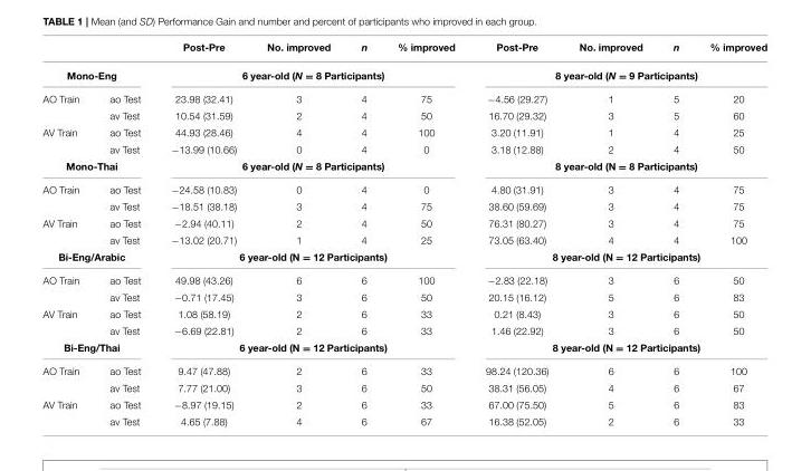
<table><thead><tr><td></td><td></td><td>Post-Pre</td><td>No. improved</td><td>n</td><td>% improved</td><td>Post-Pre</td><td>No. improved</td><td>n</td><td>% improved</td></tr></thead><tbody><tr><td colspan="2">Mono-Eng</td><td colspan="4">6 year-old (N = 8 Participants)</td><td colspan="4">8 year-old (N = 9 Participants)</td></tr><tr><td rowspan="2">AO Train</td><td>ao Test</td><td>23.98 (32.41)</td><td>3</td><td>4</td><td>75</td><td>−4.56 (29.27)</td><td>1</td><td>5</td><td>20</td></tr><tr><td>av Test</td><td>10.54 (31.59)</td><td>2</td><td>4</td><td>50</td><td>16.70 (29.32)</td><td>3</td><td>5</td><td>60</td></tr><tr><td rowspan="2">AV Train</td><td>ao Test</td><td>44.93 (28.46)</td><td>4</td><td>4</td><td>100</td><td>3.20 (11.91)</td><td>1</td><td>4</td><td>25</td></tr><tr><td>av Test</td><td>−13.99 (10.66)</td><td>0</td><td>4</td><td>0</td><td>3.18 (12.88)</td><td>2</td><td>4</td><td>50</td></tr><tr><td colspan="2">Mono-Thai</td><td colspan="4">6 year-old (N = 8 Participants)</td><td colspan="4">8 year-old (N = 8 Participants)</td></tr><tr><td rowspan="2">AO Train</td><td>ao Test</td><td>−24.58 (10.83)</td><td>0</td><td>4</td><td>0</td><td>4.80 (31.91)</td><td>3</td><td>4</td><td>75</td></tr><tr><td>av Test</td><td>−18.51 (38.18)</td><td>3</td><td>4</td><td>75</td><td>38.60 (59.69)</td><td>3</td><td>4</td><td>75</td></tr><tr><td rowspan="2">AV Train</td><td>ao Test</td><td>−2.94 (40.11)</td><td>2</td><td>4</td><td>50</td><td>76.31 (80.27)</td><td>3</td><td>4</td><td>75</td></tr><tr><td>av Test</td><td>−13.02 (20.71)</td><td>1</td><td>4</td><td>25</td><td>73.05 (63.40)</td><td>4</td><td>4</td><td>100</td></tr><tr><td colspan="2">Bi-Eng/Arabic</td><td colspan="4">6 year-old (N = 12 Participants)</td><td colspan="4">8 year-old (N = 12 Participants)</td></tr><tr><td rowspan="2">AO Train</td><td>ao Test</td><td>49.98 (43.26)</td><td>6</td><td>6</td><td>100</td><td>−2.83 (22.18)</td><td>3</td><td>6</td><td>50</td></tr><tr><td>av Test</td><td>−0.71 (17.45)</td><td>3</td><td>6</td><td>50</td><td>20.15 (16.12)</td><td>5</td><td>6</td><td>83</td></tr><tr><td rowspan="2">AV Train</td><td>ao Test</td><td>1.08 (58.19)</td><td>2</td><td>6</td><td>33</td><td>0.21 (8.43)</td><td>3</td><td>6</td><td>50</td></tr><tr><td>av Test</td><td>−6.69 (22.81)</td><td>2</td><td>6</td><td>33</td><td>1.46 (22.92)</td><td>3</td><td>6</td><td>50</td></tr><tr><td colspan="2">Bi-Eng/Thai</td><td colspan="4">6 year-old (N = 12 Participants)</td><td colspan="4">8 year-old (N = 12 Participants)</td></tr><tr><td rowspan="2">AO Train</td><td>ao Test</td><td>9.47 (47.88)</td><td>2</td><td>6</td><td>33</td><td>98.24 (120.36)</td><td>6</td><td>6</td><td>100</td></tr><tr><td>av Test</td><td>7.77 (21.00)</td><td>3</td><td>6</td><td>50</td><td>38.31 (56.05)</td><td>4</td><td>6</td><td>67</td></tr><tr><td rowspan="2">AV Train</td><td>ao Test</td><td>−8.97 (19.15)</td><td>2</td><td>6</td><td>33</td><td>67.00 (75.50)</td><td>5</td><td>6</td><td>83</td></tr><tr><td>av Test</td><td>4.65 (7.88)</td><td>4</td><td>6</td><td>67</td><td>16.38 (52.05)</td><td>2</td><td>6</td><td>33</td></tr></tbody></table>